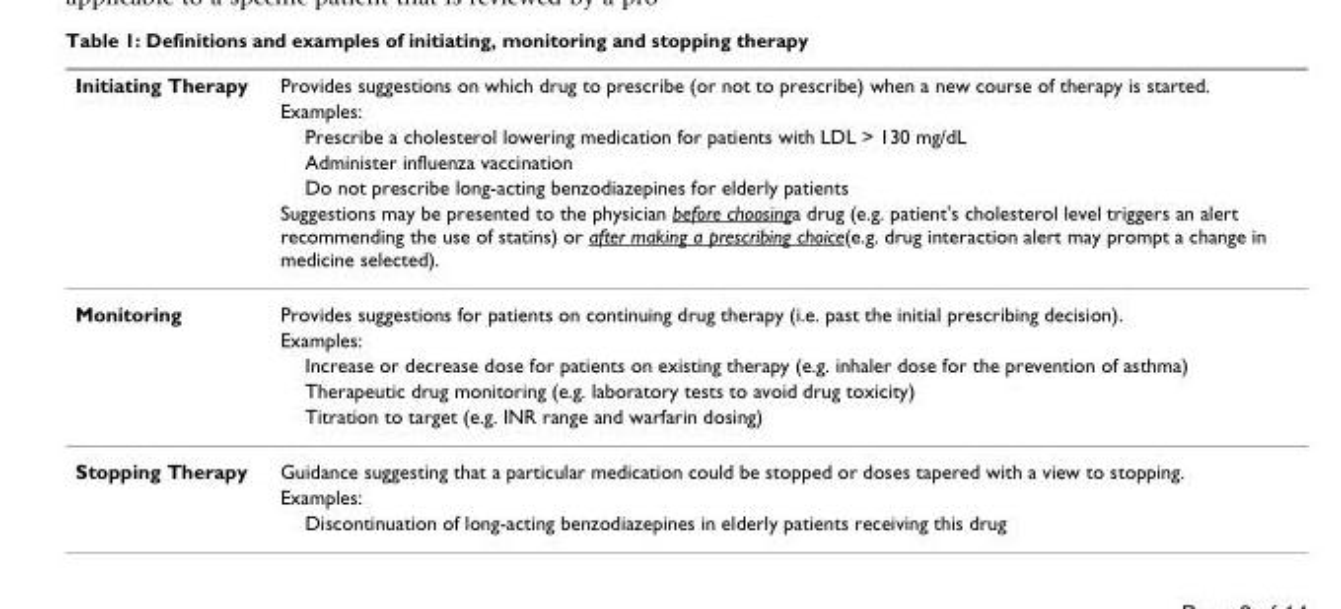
<table><thead><tr><td rowspan="6">Initiating Therapy</td><td rowspan="6">Provides suggestions on which drug to prescribe (or not to prescribe) when a new course of therapy is started. Examples: Prescribe a cholesterol lowering medication for patients with LDL &gt; 130 mg/dL Administer influenza vaccination Do not prescribe long-acting benzodiazepines for elderly patients Suggestions may be presented to the physician before choosinga drug (e.g. patient&#x27;s cholesterol level triggers an alert recommending the use of statins) or after making a prescribing choice(e.g. drug interaction alert may prompt a change in medicine selected).</td></tr><tr></tr><tr></tr><tr></tr><tr></tr><tr></tr></thead><tbody><tr><td rowspan="5">Monitoring</td><td>Provides suggestions for patients on continuing drug therapy (i.e. past the initial prescribing decision).</td></tr><tr><td>Examples:</td></tr><tr><td>Increase or decrease dose for patients on existing therapy (e.g. inhaler dose for the prevention of asthma)</td></tr><tr><td>Therapeutic drug monitoring (e.g. laboratory tests to avoid drug toxicity)</td></tr><tr><td>Titration to target (e.g. INR range and warfarin dosing)</td></tr><tr><td rowspan="3">Stopping Therapy</td><td>Guidance suggesting that a particular medication could be stopped or doses tapered with a view to stopping.</td></tr><tr><td>Examples:</td></tr><tr><td>Discontinuation of long-acting benzodiazepines in elderly patients receiving this drug</td></tr></tbody></table>